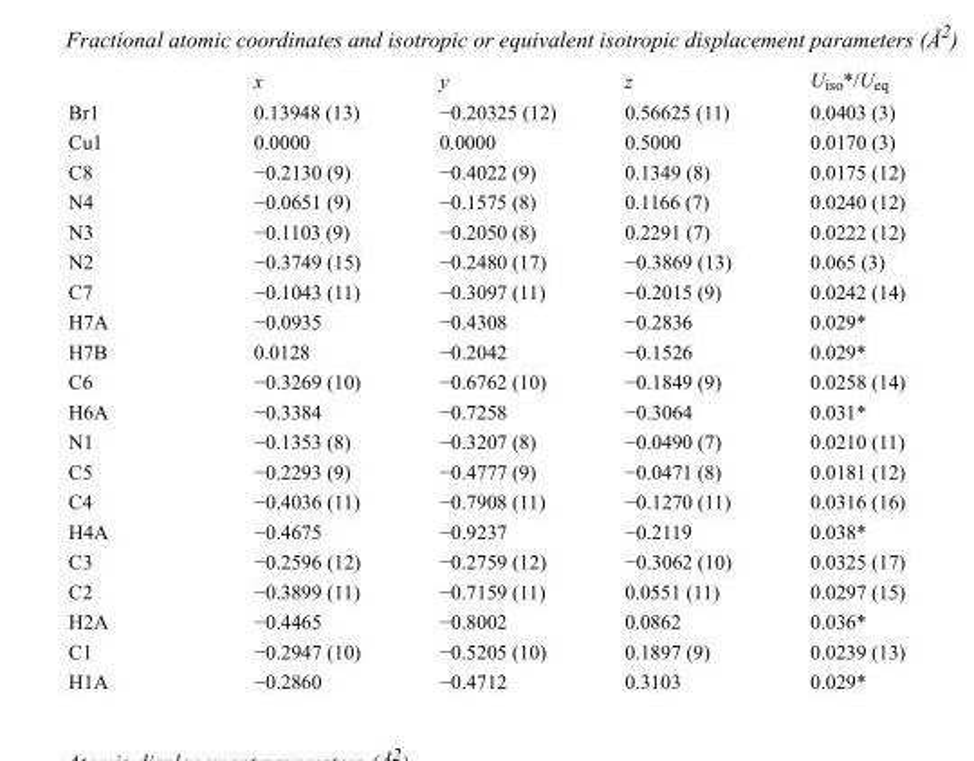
<table><thead><tr><td></td><td>x</td><td>y</td><td>z</td><td>U<sub>iso</sub>*/U<sub>eq</sub></td></tr></thead><tbody><tr><td>Br1</td><td>0.13948 (13)</td><td>−0.20325 (12)</td><td>0.56625 (11)</td><td>0.0403 (3)</td></tr><tr><td>Cu1</td><td>0.0000</td><td>0.0000</td><td>0.5000</td><td>0.0170 (3)</td></tr><tr><td>C8</td><td>−0.2130 (9)</td><td>−0.4022 (9)</td><td>0.1349 (8)</td><td>0.0175 (12)</td></tr><tr><td>N4</td><td>−0.0651 (9)</td><td>−0.1575 (8)</td><td>0.1166 (7)</td><td>0.0240 (12)</td></tr><tr><td>N3</td><td>−0.1103 (9)</td><td>−0.2050 (8)</td><td>0.2291 (7)</td><td>0.0222 (12)</td></tr><tr><td>N2</td><td>−0.3749 (15)</td><td>−0.2480 (17)</td><td>−0.3869 (13)</td><td>0.065 (3)</td></tr><tr><td>C7</td><td>−0.1043 (11)</td><td>−0.3097 (11)</td><td>−0.2015 (9)</td><td>0.0242 (14)</td></tr><tr><td>H7A</td><td>−0.0935</td><td>−0.4308</td><td>−0.2836</td><td>0.029*</td></tr><tr><td>H7B</td><td>0.0128</td><td>−0.2042</td><td>−0.1526</td><td>0.029*</td></tr><tr><td>C6</td><td>−0.3269 (10)</td><td>−0.6762 (10)</td><td>−0.1849 (9)</td><td>0.0258 (14)</td></tr><tr><td>H6A</td><td>−0.3384</td><td>−0.7258</td><td>−0.3064</td><td>0.031*</td></tr><tr><td>N1</td><td>−0.1353 (8)</td><td>−0.3207 (8)</td><td>−0.0490 (7)</td><td>0.0210 (11)</td></tr><tr><td>C5</td><td>−0.2293 (9)</td><td>−0.4777 (9)</td><td>−0.0471 (8)</td><td>0.0181 (12)</td></tr><tr><td>C4</td><td>−0.4036 (11)</td><td>−0.7908 (11)</td><td>−0.1270 (11)</td><td>0.0316 (16)</td></tr><tr><td>H4A</td><td>−0.4675</td><td>−0.9237</td><td>−0.2119</td><td>0.038*</td></tr><tr><td>C3</td><td>−0.2596 (12)</td><td>−0.2759 (12)</td><td>−0.3062 (10)</td><td>0.0325 (17)</td></tr><tr><td>C2</td><td>−0.3899 (11)</td><td>−0.7159 (11)</td><td>0.0551 (11)</td><td>0.0297 (15)</td></tr><tr><td>H2A</td><td>−0.4465</td><td>−0.8002</td><td>0.0862</td><td>0.036*</td></tr><tr><td>C1</td><td>−0.2947 (10)</td><td>−0.5205 (10)</td><td>0.1897 (9)</td><td>0.0239 (13)</td></tr><tr><td>H1A</td><td>−0.2860</td><td>−0.4712</td><td>0.3103</td><td>0.029*</td></tr></tbody></table>